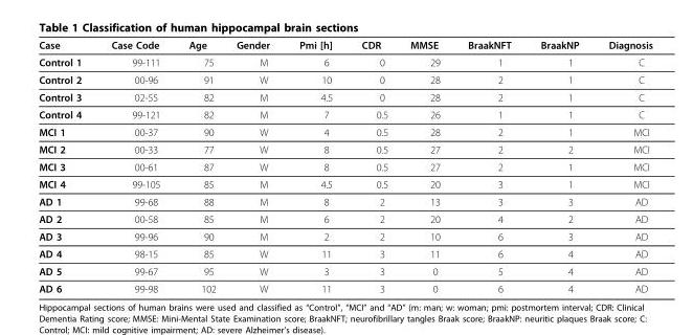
<table><thead><tr><td>Case</td><td>Case Code</td><td>Age</td><td>Gender</td><td>Pmi [h]</td><td>CDR</td><td>MMSE</td><td>BraakNFT</td><td>BraakNP</td><td>Diagnosis</td></tr></thead><tbody><tr><td>Control 1</td><td>99-111</td><td>75</td><td>M</td><td>6</td><td>0</td><td>29</td><td>1</td><td>1</td><td>C</td></tr><tr><td>Control 2</td><td>00-96</td><td>91</td><td>W</td><td>10</td><td>0</td><td>28</td><td>2</td><td>1</td><td>C</td></tr><tr><td>Control 3</td><td>02-55</td><td>82</td><td>M</td><td>4.5</td><td>0</td><td>28</td><td>2</td><td>1</td><td>C</td></tr><tr><td>Control 4</td><td>99-121</td><td>82</td><td>M</td><td>7</td><td>0.5</td><td>26</td><td>1</td><td>1</td><td>C</td></tr><tr><td>MCI 1</td><td>00-37</td><td>90</td><td>W</td><td>4</td><td>0.5</td><td>28</td><td>2</td><td>1</td><td>MCI</td></tr><tr><td>MCI 2</td><td>00-33</td><td>77</td><td>W</td><td>8</td><td>0.5</td><td>27</td><td>2</td><td>2</td><td>MCI</td></tr><tr><td>MCI 3</td><td>00-61</td><td>87</td><td>W</td><td>8</td><td>0.5</td><td>27</td><td>2</td><td>1</td><td>MCI</td></tr><tr><td>MCI 4</td><td>99-105</td><td>85</td><td>M</td><td>4.5</td><td>0.5</td><td>20</td><td>3</td><td>1</td><td>MCI</td></tr><tr><td>AD 1</td><td>99-68</td><td>88</td><td>M</td><td>8</td><td>2</td><td>13</td><td>3</td><td>3</td><td>AD</td></tr><tr><td>AD 2</td><td>00-58</td><td>85</td><td>M</td><td>6</td><td>2</td><td>20</td><td>4</td><td>2</td><td>AD</td></tr><tr><td>AD 3</td><td>99-96</td><td>90</td><td>M</td><td>2</td><td>2</td><td>10</td><td>6</td><td>3</td><td>AD</td></tr><tr><td>AD 4</td><td>98-15</td><td>85</td><td>W</td><td>11</td><td>3</td><td>11</td><td>6</td><td>4</td><td>AD</td></tr><tr><td>AD 5</td><td>99-67</td><td>95</td><td>W</td><td>3</td><td>3</td><td>0</td><td>5</td><td>4</td><td>AD</td></tr><tr><td>AD 6</td><td>99-98</td><td>102</td><td>W</td><td>11</td><td>3</td><td>0</td><td>6</td><td>4</td><td>AD</td></tr></tbody></table>